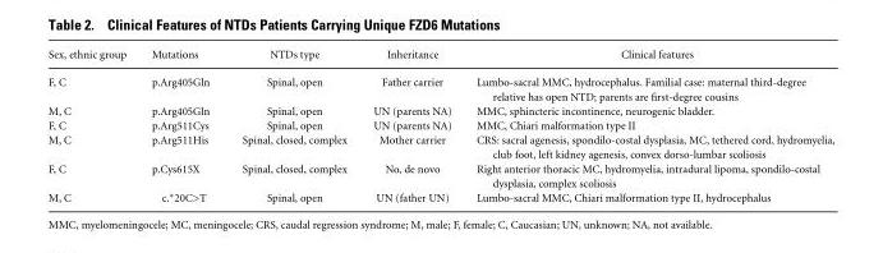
<table><thead><tr><td>Sex, ethnic group</td><td>Mutations</td><td>NTDs type</td><td>Inheritance</td><td>Clinical features</td></tr></thead><tbody><tr><td>F, C</td><td>p.Arg405Gln</td><td>Spinal, open</td><td>Father carrier</td><td>Lumbo-sacral MMC, hydrocephalus. Familial case: maternal third-degree relative has open NTD; parents are first-degree cousins</td></tr><tr><td>M, C</td><td>p.Arg405Gln</td><td>Spinal, open</td><td>UN (parents NA)</td><td>MMC, sphincteric incontinence, neurogenic bladder.</td></tr><tr><td>F, C</td><td>p.Arg511Cys</td><td>Spinal, open</td><td>UN (parents NA)</td><td>MMC, Chiari malformation type II</td></tr><tr><td>M, C</td><td>p.Arg511His</td><td>Spinal, closed, complex</td><td>Mother carrier</td><td>CRS: sacral agenesis, spondilo-costal dysplasia, MC, tethered cord, hydromyelia, club foot, left kidney agenesis, convex dorso-lumbar scoliosis</td></tr><tr><td>F, C</td><td>p.Cys615X</td><td>Spinal, closed, complex</td><td>No, de novo</td><td>Right anterior thoracic MC, hydromyelia, intradural lipoma, spondilo-costal dysplasia, complex scoliosis</td></tr><tr><td>M, C</td><td>c.∗20C&gt;T</td><td>Spinal, open</td><td>UN (father UN)</td><td>Lumbo-sacral MMC, Chiari malformation type II, hydrocephalus</td></tr></tbody></table>